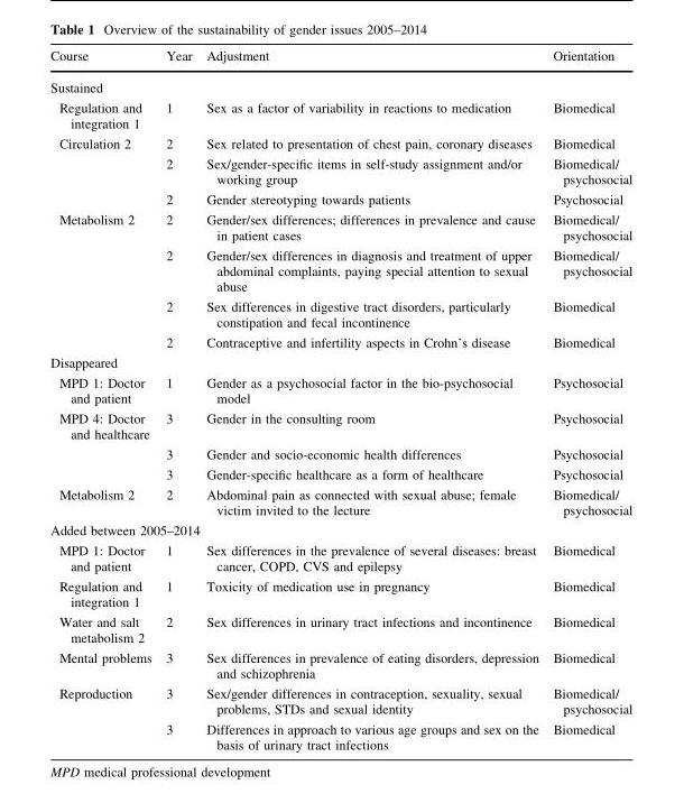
<table><thead><tr><td>Course</td><td>Year</td><td>Adjustment</td><td>Orientation</td></tr></thead><tbody><tr><td colspan="4">Sustained</td></tr><tr><td>Regulation and integration 1</td><td>1</td><td>Sex as a factor of variability in reactions to medication</td><td>Biomedical</td></tr><tr><td rowspan="3">Circulation 2</td><td>2</td><td>Sex related to presentation of chest pain, coronary diseases</td><td>Biomedical</td></tr><tr><td>2</td><td>Sex/gender-specific items in self-study assignment and/or working group</td><td>Biomedical/ psychosocial</td></tr><tr><td>2</td><td>Gender stereotyping towards patients</td><td>Psychosocial</td></tr><tr><td rowspan="4">Metabolism 2</td><td>2</td><td>Gender/sex differences; differences in prevalence and cause in patient cases</td><td>Biomedical/ psychosocial</td></tr><tr><td>2</td><td>Gender/sex differences in diagnosis and treatment of upper abdominal complaints, paying special attention to sexual abuse</td><td>Biomedical/ psychosocial</td></tr><tr><td>2</td><td>Sex differences in digestive tract disorders, particularly constipation and fecal incontinence</td><td>Biomedical</td></tr><tr><td>2</td><td>Contraceptive and infertility aspects in Crohn’s disease</td><td>Biomedical</td></tr><tr><td colspan="4">Disappeared</td></tr><tr><td>MPD 1: Doctor and patient</td><td>1</td><td>Gender as a psychosocial factor in the bio-psychosocial model</td><td>Psychosocial</td></tr><tr><td rowspan="3">MPD 4: Doctor and healthcare</td><td>3</td><td>Gender in the consulting room</td><td>Psychosocial</td></tr><tr><td>3</td><td>Gender and socio-economic health differences</td><td>Psychosocial</td></tr><tr><td>3</td><td>Gender-specific healthcare as a form of healthcare</td><td>Psychosocial</td></tr><tr><td>Metabolism 2</td><td>2</td><td>Abdominal pain as connected with sexual abuse; female victim invited to the lecture</td><td>Biomedical/ psychosocial</td></tr><tr><td colspan="4">Added between 2005–2014</td></tr><tr><td>MPD 1: Doctor and patient</td><td>1</td><td>Sex differences in the prevalence of several diseases: breast cancer, COPD, CVS and epilepsy</td><td>Biomedical</td></tr><tr><td>Regulation and integration 1</td><td>1</td><td>Toxicity of medication use in pregnancy</td><td>Biomedical</td></tr><tr><td>Water and salt metabolism 2</td><td>2</td><td>Sex differences in urinary tract infections and incontinence</td><td>Biomedical</td></tr><tr><td>Mental problems</td><td>3</td><td>Sex differences in prevalence of eating disorders, depression and schizophrenia</td><td>Biomedical</td></tr><tr><td rowspan="2">Reproduction</td><td>3</td><td>Sex/gender differences in contraception, sexuality, sexual problems, STDs and sexual identity</td><td>Biomedical/ psychosocial</td></tr><tr><td>3</td><td>Differences in approach to various age groups and sex on the basis of urinary tract infections</td><td>Biomedical</td></tr></tbody></table>